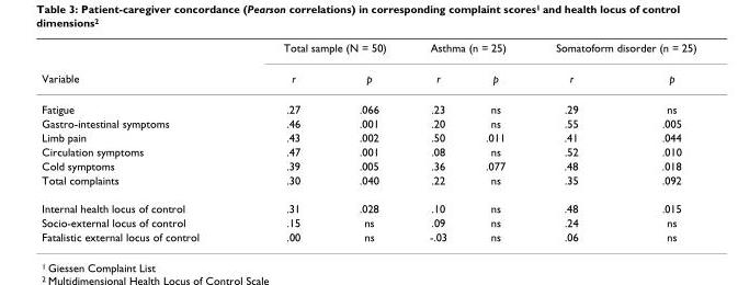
<table><thead><tr><td rowspan="2">Variable</td><td colspan="2">Total sample (N = 50)</td><td colspan="2">Asthma (n = 25)</td><td colspan="2">Somatoform disorder (n = 25)</td></tr><tr><td>r</td><td>p</td><td>r</td><td>p</td><td>r</td><td>p</td></tr></thead><tbody><tr><td>Fatigue</td><td>.27</td><td>.066</td><td>.23</td><td>ns</td><td>.29</td><td>ns</td></tr><tr><td>Gastro-intestinal symptoms</td><td>.46</td><td>.001</td><td>.20</td><td>ns</td><td>.55</td><td>.005</td></tr><tr><td>Limb pain</td><td>.43</td><td>.002</td><td>.50</td><td>.011</td><td>.41</td><td>.044</td></tr><tr><td>Circulation symptoms</td><td>.47</td><td>.001</td><td>.08</td><td>ns</td><td>.52</td><td>.010</td></tr><tr><td>Cold symptoms</td><td>.39</td><td>.005</td><td>.36</td><td>.077</td><td>.48</td><td>.018</td></tr><tr><td>Total complaints</td><td>.30</td><td>.040</td><td>.22</td><td>ns</td><td>.35</td><td>.092</td></tr><tr><td>Internal health locus of control</td><td>.31</td><td>.028</td><td>.10</td><td>ns</td><td>.48</td><td>.015</td></tr><tr><td>Socio-external locus of control</td><td>.15</td><td>ns</td><td>.09</td><td>ns</td><td>.24</td><td>ns</td></tr><tr><td>Fatalistic external locus of control</td><td>.00</td><td>ns</td><td>-.03</td><td>ns</td><td>.06</td><td>ns</td></tr></tbody></table>